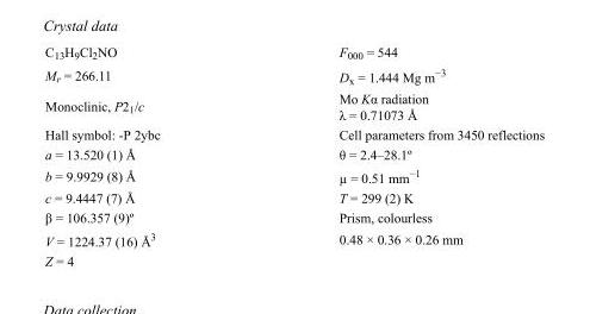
<table><tbody><tr><td>C<sub>13</sub>H<sub>9</sub>Cl<sub>2</sub>NO</td><td>F<sub>000</sub> = 544</td></tr><tr><td>M<sub>r</sub> = 266.11</td><td>D<sub>x</sub> = 1.444 Mg m<sup>−3</sup></td></tr><tr><td>Monoclinic, P2<sub>1</sub>/c</td><td>Mo Kα radiation λ = 0.71073 Å</td></tr><tr><td>Hall symbol: -P 2ybc</td><td>Cell parameters from 3450 reflections</td></tr><tr><td>a = 13.520 (1) Å</td><td>θ = 2.4–28.1º</td></tr><tr><td>b = 9.9929 (8) Å</td><td>µ = 0.51 mm<sup>−1</sup></td></tr><tr><td>c = 9.4447 (7) Å</td><td>T = 299 (2) K</td></tr><tr><td>β = 106.357 (9)º</td><td>Prism, colourless</td></tr><tr><td>V = 1224.37 (16) Å<sup>3</sup></td><td>0.48 × 0.36 × 0.26 mm</td></tr><tr><td>Z = 4</td><td></td></tr></tbody></table>